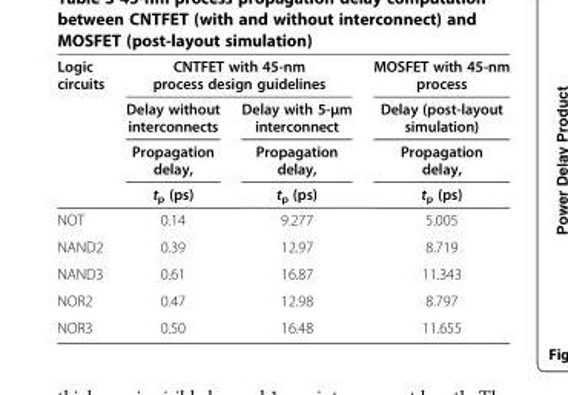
<table><thead><tr><td rowspan="4">Logic circuits</td><td colspan="2">CNTFET with 45-nm process design guidelines</td><td rowspan="4">MOSFET with 45-nm process Delay (post-layout simulation) Propagation delay, t<sub>p</sub> (ps)</td></tr><tr><td rowspan="3">Delay without interconnects Propagation delay, t<sub>p</sub> (ps)</td><td rowspan="3">Delay with 5-μm interconnect Propagation delay, t<sub>p</sub> (ps)</td></tr><tr></tr><tr></tr></thead><tbody><tr><td>NOT</td><td>0.14</td><td>9.277</td><td>5.005</td></tr><tr><td>NAND2</td><td>0.39</td><td>12.97</td><td>8.719</td></tr><tr><td>NAND3</td><td>0.61</td><td>16.87</td><td>11.343</td></tr><tr><td>NOR2</td><td>0.47</td><td>12.98</td><td>8.797</td></tr><tr><td>NOR3</td><td>0.50</td><td>16.48</td><td>11.655</td></tr></tbody></table>